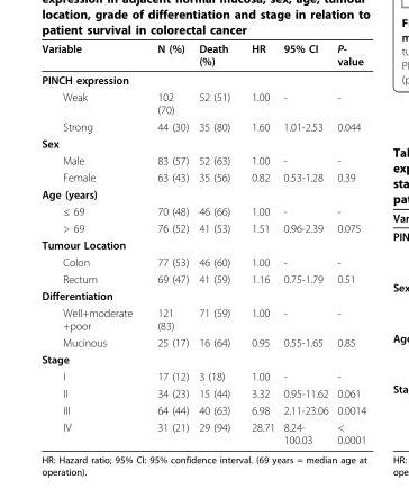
<table><thead><tr><td>Variable</td><td>N (%)</td><td>Death (%)</td><td>HR</td><td>95% CI</td><td>P- value</td></tr></thead><tbody><tr><td colspan="6">PINCH expression</td></tr><tr><td>Weak</td><td>102 (70)</td><td>52 (51)</td><td>1.00</td><td>-</td><td>-</td></tr><tr><td>Strong</td><td>44 (30)</td><td>35 (80)</td><td>1.60</td><td>1.01-2.53</td><td>0.044</td></tr><tr><td colspan="6">Sex</td></tr><tr><td>Male</td><td>83 (57)</td><td>52 (63)</td><td>1.00</td><td>-</td><td>-</td></tr><tr><td>Female</td><td>63 (43)</td><td>35 (56)</td><td>0.82</td><td>0.53-1.28</td><td>0.39</td></tr><tr><td colspan="6">Age (years)</td></tr><tr><td>≤ 69</td><td>70 (48)</td><td>46 (66)</td><td>1.00</td><td>-</td><td>-</td></tr><tr><td>&gt; 69</td><td>76 (52)</td><td>41 (53)</td><td>1.51</td><td>0.96-2.39</td><td>0.075</td></tr><tr><td colspan="6">Tumour Location</td></tr><tr><td>Colon</td><td>77 (53)</td><td>46 (60)</td><td>1.00</td><td>-</td><td>-</td></tr><tr><td>Rectum</td><td>69 (47)</td><td>41 (59)</td><td>1.16</td><td>0.75-1.79</td><td>0.51</td></tr><tr><td colspan="6">Differentiation</td></tr><tr><td>Well+moderate +poor</td><td>121 (83)</td><td>71 (59)</td><td>1.00</td><td>-</td><td>-</td></tr><tr><td>Mucinous</td><td>25 (17)</td><td>16 (64)</td><td>0.95</td><td>0.55-1.65</td><td>0.85</td></tr><tr><td colspan="6">Stage</td></tr><tr><td>I</td><td>17 (12)</td><td>3 (18)</td><td>1.00</td><td>-</td><td>-</td></tr><tr><td>II</td><td>34 (23)</td><td>15 (44)</td><td>3.32</td><td>0.95-11.62</td><td>0.061</td></tr><tr><td>III</td><td>64 (44)</td><td>40 (63)</td><td>6.98</td><td>2.11-23.06</td><td>0.0014</td></tr><tr><td>IV</td><td>31 (21)</td><td>29 (94)</td><td>28.71</td><td>8.24- 100.03</td><td>&lt; 0.0001</td></tr></tbody></table>